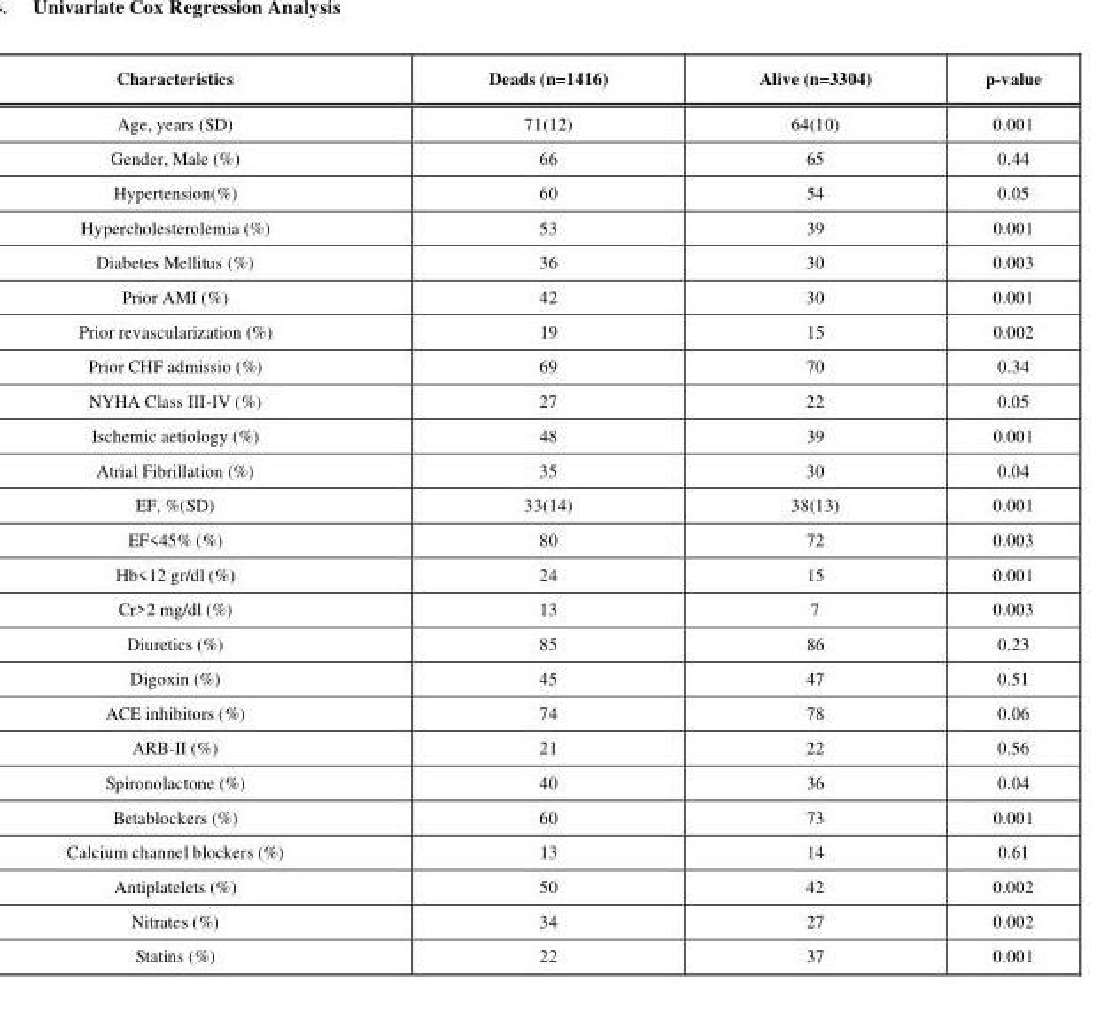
<table><thead><tr><td>Characteristics</td><td>Deads (n=1416)</td><td>Alive (n=3304)</td><td>p-value</td></tr></thead><tbody><tr><td>Age, years (SD)</td><td>71(12)</td><td>64(10)</td><td>0.001</td></tr><tr><td>Gender, Male (%)</td><td>66</td><td>65</td><td>0.44</td></tr><tr><td>Hypertension(%)</td><td>60</td><td>54</td><td>0.05</td></tr><tr><td>Hypercholesterolemia (%)</td><td>53</td><td>39</td><td>0.001</td></tr><tr><td>Diabetes Mellitus (%)</td><td>36</td><td>30</td><td>0.003</td></tr><tr><td>Prior AMI (%)</td><td>42</td><td>30</td><td>0.001</td></tr><tr><td>Prior revascularization (%)</td><td>19</td><td>15</td><td>0.002</td></tr><tr><td>Prior CHF admissio (%)</td><td>69</td><td>70</td><td>0.34</td></tr><tr><td>NYHA Class III-IV (%)</td><td>27</td><td>22</td><td>0.05</td></tr><tr><td>Ischemic aetiology (%)</td><td>48</td><td>39</td><td>0.001</td></tr><tr><td>Atrial Fibrillation (%)</td><td>35</td><td>30</td><td>0.04</td></tr><tr><td>EF, %(SD)</td><td>33(14)</td><td>38(13)</td><td>0.001</td></tr><tr><td>EF&lt;45% (%)</td><td>80</td><td>72</td><td>0.003</td></tr><tr><td>Hb&lt;12 gr/dl (%)</td><td>24</td><td>15</td><td>0.001</td></tr><tr><td>Cr&gt;2 mg/dl (%)</td><td>13</td><td>7</td><td>0.003</td></tr><tr><td>Diuretics (%)</td><td>85</td><td>86</td><td>0.23</td></tr><tr><td>Digoxin (%)</td><td>45</td><td>47</td><td>0.51</td></tr><tr><td>ACE inhibitors (%)</td><td>74</td><td>78</td><td>0.06</td></tr><tr><td>ARB-II (%)</td><td>21</td><td>22</td><td>0.56</td></tr><tr><td>Spironolactone (%)</td><td>40</td><td>36</td><td>0.04</td></tr><tr><td>Betablockers (%)</td><td>60</td><td>73</td><td>0.001</td></tr><tr><td>Calcium channel blockers (%)</td><td>13</td><td>14</td><td>0.61</td></tr><tr><td>Antiplatelets (%)</td><td>50</td><td>42</td><td>0.002</td></tr><tr><td>Nitrates (%)</td><td>34</td><td>27</td><td>0.002</td></tr><tr><td>Statins (%)</td><td>22</td><td>37</td><td>0.001</td></tr></tbody></table>